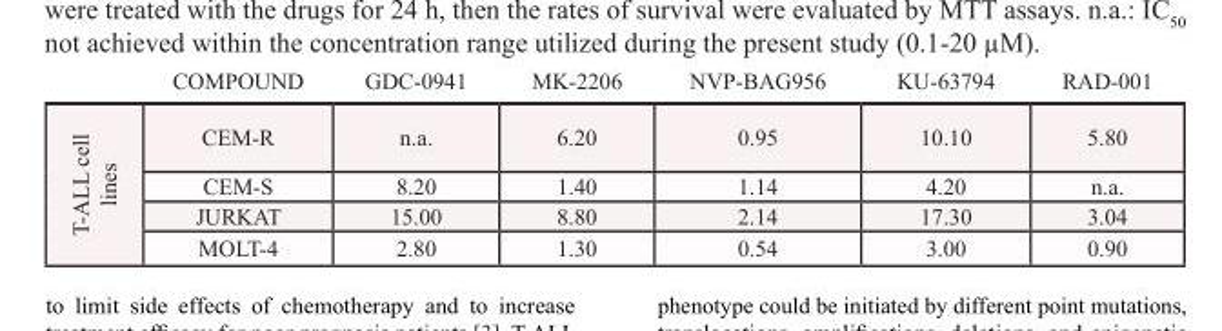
<table><thead><tr><td></td><td>COMPOUND</td><td>GDC-0941</td><td>MK-2206</td><td>NVP-BAG956</td><td>KU-63794</td><td>RAD-001</td></tr></thead><tbody><tr><td rowspan="4">T-ALL cell lines</td><td>CEM-R</td><td>n.a.</td><td>6.20</td><td>0.95</td><td>10.10</td><td>5.80</td></tr><tr><td>CEM-S</td><td>8.20</td><td>1.40</td><td>1.14</td><td>4.20</td><td>n.a.</td></tr><tr><td>JURKAT</td><td>15.00</td><td>8.80</td><td>2.14</td><td>17.30</td><td>3.04</td></tr><tr><td>MOLT-4</td><td>2.80</td><td>1.30</td><td>0.54</td><td>3.00</td><td>0.90</td></tr></tbody></table>